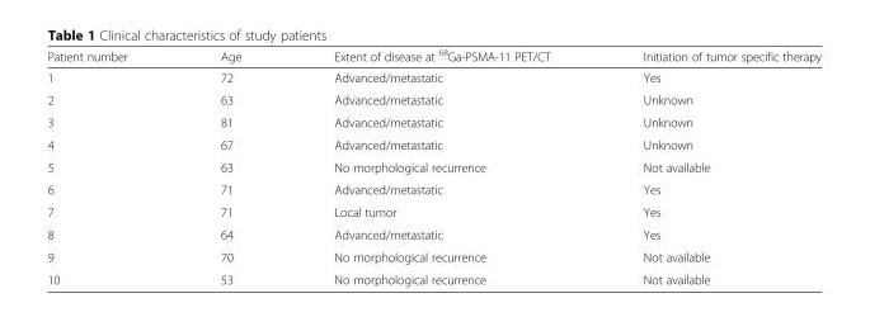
<table><thead><tr><td>Patient number</td><td>Age</td><td>Extent of disease at <sup>68</sup>Ga-PSMA-11 PET/CT</td><td>Initiation of tumor specific therapy</td></tr></thead><tbody><tr><td>1</td><td>72</td><td>Advanced/metastatic</td><td>Yes</td></tr><tr><td>2</td><td>63</td><td>Advanced/metastatic</td><td>Unknown</td></tr><tr><td>3</td><td>81</td><td>Advanced/metastatic</td><td>Unknown</td></tr><tr><td>4</td><td>67</td><td>Advanced/metastatic</td><td>Unknown</td></tr><tr><td>5</td><td>63</td><td>No morphological recurrence</td><td>Not available</td></tr><tr><td>6</td><td>71</td><td>Advanced/metastatic</td><td>Yes</td></tr><tr><td>7</td><td>71</td><td>Local tumor</td><td>Yes</td></tr><tr><td>8</td><td>64</td><td>Advanced/metastatic</td><td>Yes</td></tr><tr><td>9</td><td>70</td><td>No morphological recurrence</td><td>Not available</td></tr><tr><td>10</td><td>53</td><td>No morphological recurrence</td><td>Not available</td></tr></tbody></table>